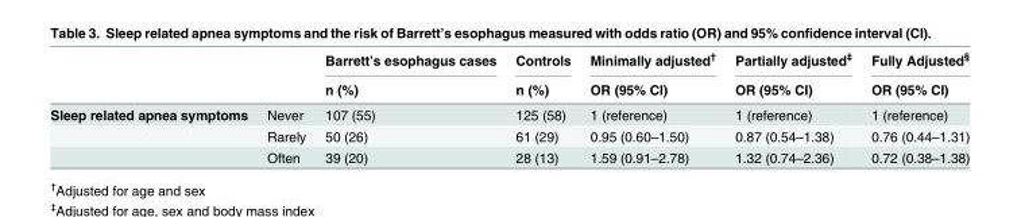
<table><thead><tr><td rowspan="2"></td><td rowspan="2"></td><td rowspan="2">Barrett’s esophagus cases n (%)</td><td rowspan="2">Controls n (%)</td><td rowspan="2">Minimally adjusted<sup>†</sup> OR (95% CI)</td><td rowspan="2">Partially adjusted<sup>‡</sup> OR (95% CI)</td><td rowspan="2">Fully Adjusted<sup>§</sup> OR (95% CI)</td></tr><tr></tr></thead><tbody><tr><td rowspan="3">Sleep related apnea symptoms</td><td>Never</td><td>107 (55)</td><td>125 (58)</td><td>1 (reference)</td><td>1 (reference)</td><td>1 (reference)</td></tr><tr><td>Rarely</td><td>50 (26)</td><td>61 (29)</td><td>0.95 (0.60–1.50)</td><td>0.87 (0.54–1.38)</td><td>0.76 (0.44–1.31)</td></tr><tr><td>Often</td><td>39 (20)</td><td>28 (13)</td><td>1.59 (0.91–2.78)</td><td>1.32 (0.74–2.36)</td><td>0.72 (0.38–1.38)</td></tr></tbody></table>